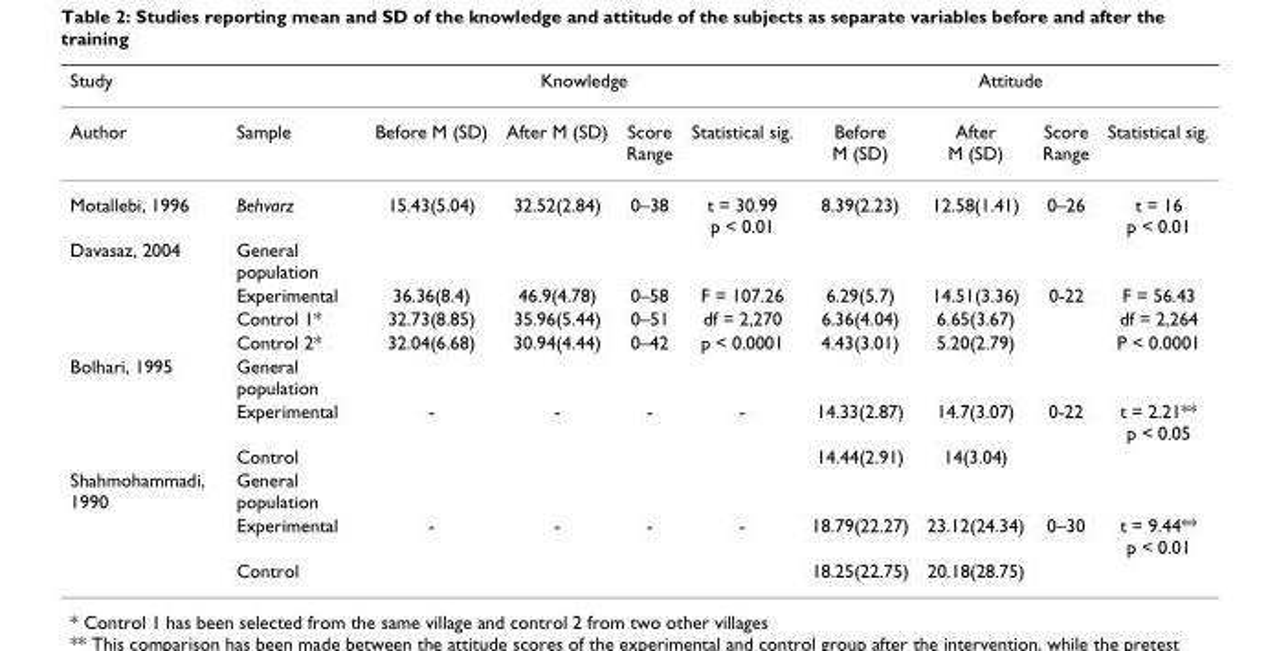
<table><thead><tr><td rowspan="2">Study Author</td><td rowspan="2">Sample</td><td colspan="4">Knowledge</td><td colspan="4">Attitude</td></tr><tr><td>Before M (SD)</td><td>After M (SD)</td><td>Score Range</td><td>Statistical sig.</td><td>Before M (SD)</td><td>After M (SD)</td><td>Score Range</td><td>Statistical sig.</td></tr></thead><tbody><tr><td>Motallebi, 1996</td><td>Behvarz</td><td>15.43(5.04)</td><td>32.52(2.84)</td><td>0–38</td><td>t = 30.99 p &lt; 0.01</td><td>8.39(2.23)</td><td>12.58(1.41)</td><td>0–26</td><td>t = 16 p &lt; 0.01</td></tr><tr><td rowspan="4">Davasaz, 2004</td><td>General population</td><td></td><td></td><td></td><td></td><td></td><td></td><td></td><td></td></tr><tr><td>Experimental</td><td>36.36(8.4)</td><td>46.9(4.78)</td><td>0–58</td><td>F = 107.26</td><td>6.29(5.7)</td><td>14.51(3.36)</td><td>0-22</td><td>F = 56.43</td></tr><tr><td>Control 1*</td><td>32.73(8.85)</td><td>35.96(5.44)</td><td>0–51</td><td>df = 2,270</td><td>6.36(4.04)</td><td>6.65(3.67)</td><td></td><td>df = 2,264</td></tr><tr><td>Control 2*</td><td>32.04(6.68)</td><td>30.94(4.44)</td><td>0–42</td><td>p &lt; 0.0001</td><td>4.43(3.01)</td><td>5.20(2.79)</td><td></td><td>P &lt; 0.0001</td></tr><tr><td rowspan="3">Bolhari, 1995</td><td>General population</td><td></td><td></td><td></td><td></td><td></td><td></td><td></td><td></td></tr><tr><td>Experimental</td><td>-</td><td>-</td><td>-</td><td>-</td><td>14.33(2.87)</td><td>14.7(3.07)</td><td>0-22</td><td>t = 2.21** p &lt; 0.05</td></tr><tr><td>Control</td><td></td><td></td><td></td><td></td><td>14.44(2.91)</td><td>14(3.04)</td><td></td><td></td></tr><tr><td rowspan="3">Shahmohammadi, 1990</td><td>General population</td><td></td><td></td><td></td><td></td><td></td><td></td><td></td><td></td></tr><tr><td>Experimental</td><td>-</td><td>-</td><td>-</td><td>-</td><td>18.79(22.27)</td><td>23.12(24.34)</td><td>0–30</td><td>t = 9.44** p &lt; 0.01</td></tr><tr><td>Control</td><td></td><td></td><td></td><td></td><td>18.25(22.75)</td><td>20.18(28.75)</td><td></td><td></td></tr></tbody></table>